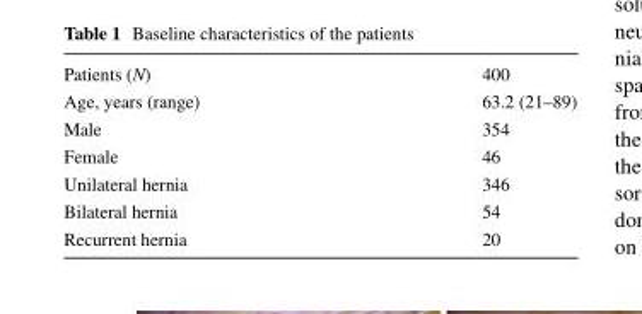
<table><tbody><tr><td>Patients (N)</td><td>400</td></tr><tr><td>Age, years (range)</td><td>63.2 (21–89)</td></tr><tr><td>Male</td><td>354</td></tr><tr><td>Female</td><td>46</td></tr><tr><td>Unilateral hernia</td><td>346</td></tr><tr><td>Bilateral hernia</td><td>54</td></tr><tr><td>Recurrent hernia</td><td>20</td></tr></tbody></table>